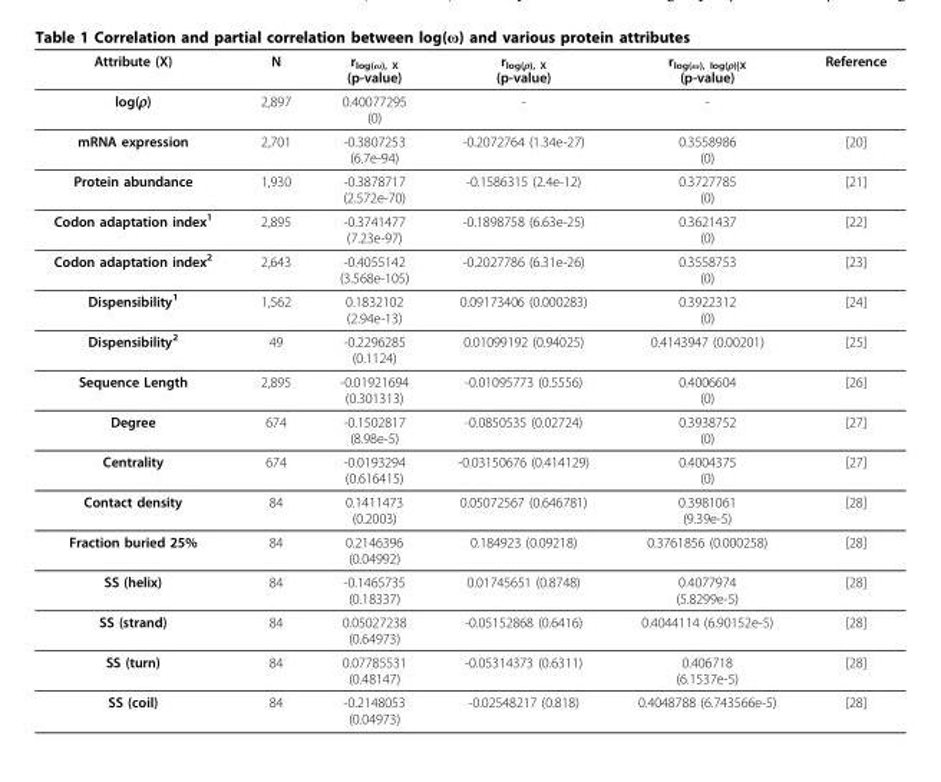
<table><thead><tr><td>Attribute (X)</td><td>N</td><td>r<sub>log(ω), X</sub> (p-value)</td><td>r<sub>log(ρ), X</sub> (p-value)</td><td>r<sub>log(ω), log(ρ)|X</sub> (p-value)</td><td>Reference</td></tr></thead><tbody><tr><td>log(ρ)</td><td>2,897</td><td>0.40077295 (0)</td><td>-</td><td>-</td><td></td></tr><tr><td>mRNA expression</td><td>2,701</td><td>-0.3807253 (6.7e-94)</td><td>-0.2072764 (1.34e-27)</td><td>0.3558986 (0)</td><td>[20]</td></tr><tr><td>Protein abundance</td><td>1,930</td><td>-0.3878717 (2.572e-70)</td><td>-0.1586315 (2.4e-12)</td><td>0.3727785 (0)</td><td>[21]</td></tr><tr><td>Codon adaptation index<sup>1</sup></td><td>2,895</td><td>-0.3741477 (7.23e-97)</td><td>-0.1898758 (6.63e-25)</td><td>0.3621437 (0)</td><td>[22]</td></tr><tr><td>Codon adaptation index<sup>2</sup></td><td>2,643</td><td>-0.4055142 (3.568e-105)</td><td>-0.2027786 (6.31e-26)</td><td>0.3558753 (0)</td><td>[23]</td></tr><tr><td>Dispensibility<sup>1</sup></td><td>1,562</td><td>0.1832102 (2.94e-13)</td><td>0.09173406 (0.000283)</td><td>0.3922312 (0)</td><td>[24]</td></tr><tr><td>Dispensibility<sup>2</sup></td><td>49</td><td>-0.2296285 (0.1124)</td><td>0.01099192 (0.94025)</td><td>0.4143947 (0.00201)</td><td>[25]</td></tr><tr><td>Sequence Length</td><td>2,895</td><td>-0.01921694 (0.301313)</td><td>-0.01095773 (0.5556)</td><td>0.4006604 (0)</td><td>[26]</td></tr><tr><td>Degree</td><td>674</td><td>-0.1502817 (8.98e-5)</td><td>-0.0850535 (0.02724)</td><td>0.3938752 (0)</td><td>[27]</td></tr><tr><td>Centrality</td><td>674</td><td>-0.0193294 (0.616415)</td><td>-0.03150676 (0.414129)</td><td>0.4004375 (0)</td><td>[27]</td></tr><tr><td>Contact density</td><td>84</td><td>0.1411473 (0.2003)</td><td>0.05072567 (0.646781)</td><td>0.3981061 (9.39e-5)</td><td>[28]</td></tr><tr><td>Fraction buried 25%</td><td>84</td><td>0.2146396 (0.04992)</td><td>0.184923 (0.09218)</td><td>0.3761856 (0.000258)</td><td>[28]</td></tr><tr><td>SS (helix)</td><td>84</td><td>-0.1465735 (0.18337)</td><td>0.01745651 (0.8748)</td><td>0.4077974 (5.8299e-5)</td><td>[28]</td></tr><tr><td>SS (strand)</td><td>84</td><td>0.05027238 (0.64973)</td><td>-0.05152868 (0.6416)</td><td>0.4044114 (6.90152e-5)</td><td>[28]</td></tr><tr><td>SS (turn)</td><td>84</td><td>0.07785531 (0.48147)</td><td>-0.05314373 (0.6311)</td><td>0.406718 (6.1537e-5)</td><td>[28]</td></tr><tr><td>SS (coil)</td><td>84</td><td>-0.2148053 (0.04973)</td><td>-0.02548217 (0.818)</td><td>0.4048788 (6.743566e-5)</td><td>[28]</td></tr></tbody></table>